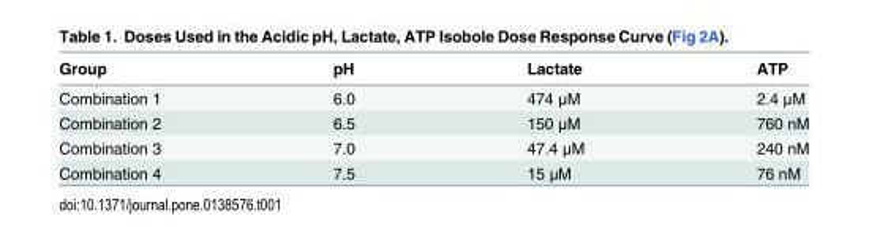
<table><thead><tr><td>Group</td><td>pH</td><td>Lactate</td><td>ATP</td></tr></thead><tbody><tr><td>Combination 1</td><td>6.0</td><td>474 μM</td><td>2.4 μM</td></tr><tr><td>Combination 2</td><td>6.5</td><td>150 μM</td><td>760 nM</td></tr><tr><td>Combination 3</td><td>7.0</td><td>47.4 μM</td><td>240 nM</td></tr><tr><td>Combination 4</td><td>7.5</td><td>15 μM</td><td>76 nM</td></tr></tbody></table>